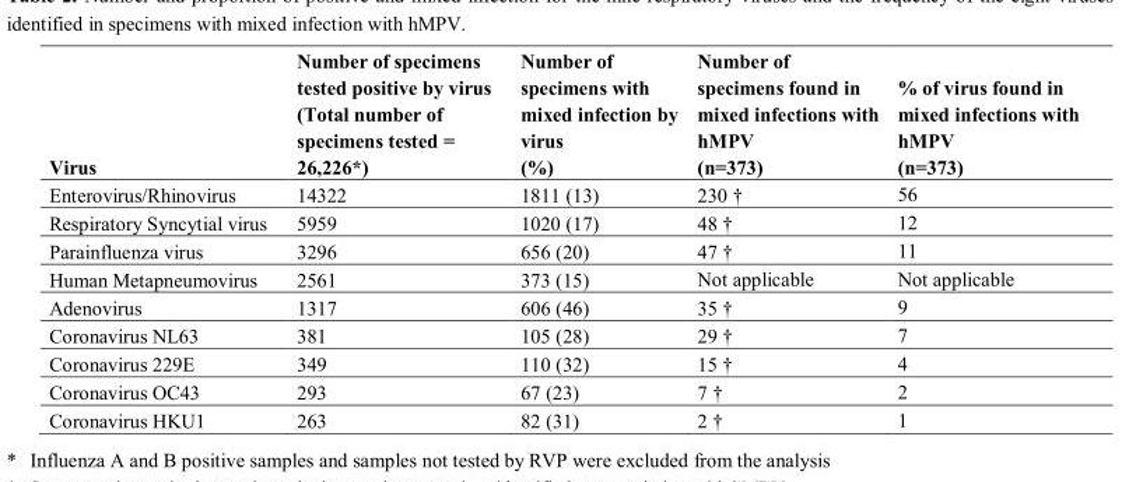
<table><thead><tr><td rowspan="2">Virus</td><td rowspan="2">Number of specimens tested positive by virus (Total number of specimens tested = 26,226*)</td><td rowspan="2">Number of specimens with mixed infection by virus (%)</td><td rowspan="2">Number of specimens found in mixed infections with hMPV (n=373)</td><td rowspan="2">% of virus found in mixed infections with hMPV (n=373)</td></tr><tr></tr></thead><tbody><tr><td>Enterovirus/Rhinovirus</td><td>14322</td><td>1811 (13)</td><td>230 †</td><td>56</td></tr><tr><td>Respiratory Syncytial virus</td><td>5959</td><td>1020 (17)</td><td>48 †</td><td>12</td></tr><tr><td>Parainfluenza virus</td><td>3296</td><td>656 (20)</td><td>47 †</td><td>11</td></tr><tr><td>Human Metapneumovirus</td><td>2561</td><td>373 (15)</td><td>Not applicable</td><td>Not applicable</td></tr><tr><td>Adenovirus</td><td>1317</td><td>606 (46)</td><td>35 †</td><td>9</td></tr><tr><td>Coronavirus NL63</td><td>381</td><td>105 (28)</td><td>29 †</td><td>7</td></tr><tr><td>Coronavirus 229E</td><td>349</td><td>110 (32)</td><td>15 †</td><td>4</td></tr><tr><td>Coronavirus OC43</td><td>293</td><td>67 (23)</td><td>7 †</td><td>2</td></tr><tr><td>Coronavirus HKU1</td><td>263</td><td>82 (31)</td><td>2 †</td><td>1</td></tr></tbody></table>